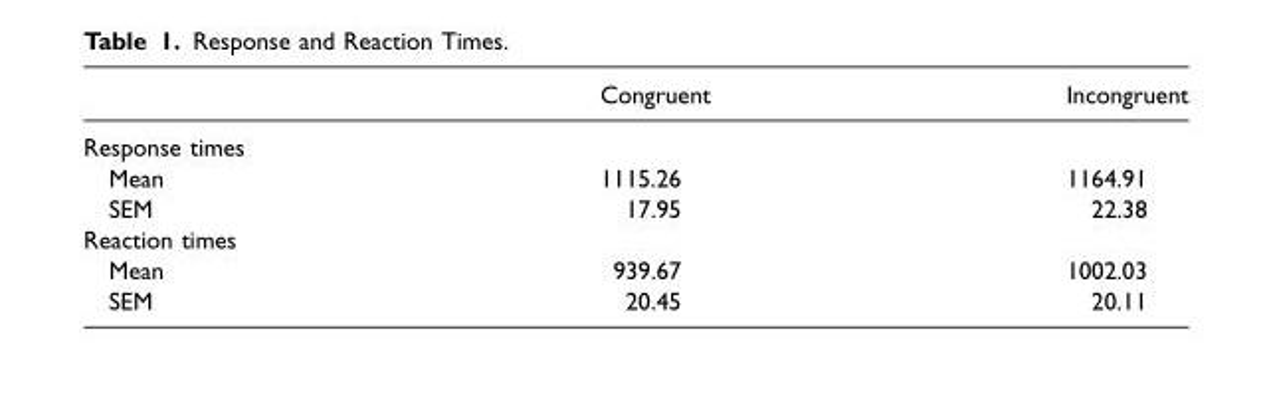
<table><thead><tr><td></td><td>Congruent</td><td>Incongruent</td></tr></thead><tbody><tr><td colspan="3">Response times</td></tr><tr><td>Mean</td><td>1115.26</td><td>1164.91</td></tr><tr><td>SEM</td><td>17.95</td><td>22.38</td></tr><tr><td colspan="3">Reaction times</td></tr><tr><td>Mean</td><td>939.67</td><td>1002.03</td></tr><tr><td>SEM</td><td>20.45</td><td>20.11</td></tr></tbody></table>